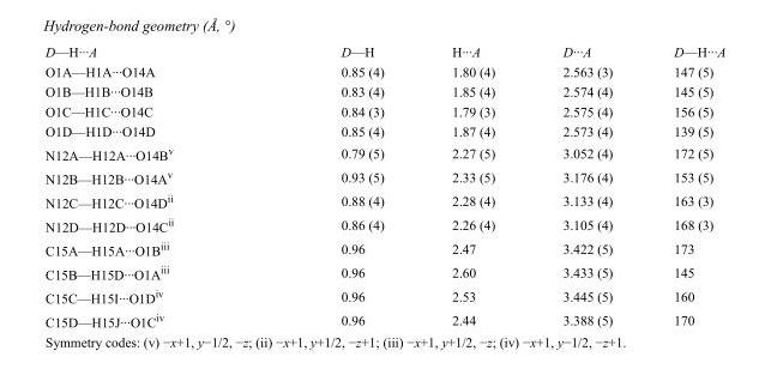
<table><tbody><tr><td>D—H···A</td><td>D—H</td><td>H···A</td><td>D···A</td><td>D—H···A</td></tr><tr><td>O1A—H1A···O14A</td><td>0.85 (4)</td><td>1.80 (4)</td><td>2.563 (3)</td><td>147 (5)</td></tr><tr><td>O1B—H1B···O14B</td><td>0.83 (4)</td><td>1.85 (4)</td><td>2.574 (4)</td><td>145 (5)</td></tr><tr><td>O1C—H1C···O14C</td><td>0.84 (3)</td><td>1.79 (3)</td><td>2.575 (4)</td><td>156 (5)</td></tr><tr><td>O1D—H1D···O14D</td><td>0.85 (4)</td><td>1.87 (4)</td><td>2.573 (4)</td><td>139 (5)</td></tr><tr><td>N12A—H12A···O14B<sup>v</sup></td><td>0.79 (5)</td><td>2.27 (5)</td><td>3.052 (4)</td><td>172 (5)</td></tr><tr><td>N12B—H12B···O14A<sup>v</sup></td><td>0.93 (5)</td><td>2.33 (5)</td><td>3.176 (4)</td><td>153 (5)</td></tr><tr><td>N12C—H12C···O14D<sup>ii</sup></td><td>0.88 (4)</td><td>2.28 (4)</td><td>3.133 (4)</td><td>163 (3)</td></tr><tr><td>N12D—H12D···O14C<sup>ii</sup></td><td>0.86 (4)</td><td>2.26 (4)</td><td>3.105 (4)</td><td>168 (3)</td></tr><tr><td>C15A—H15A···O1B<sup>iii</sup></td><td>0.96</td><td>2.47</td><td>3.422 (5)</td><td>173</td></tr><tr><td>C15B—H15D···O1A<sup>iii</sup></td><td>0.96</td><td>2.60</td><td>3.433 (5)</td><td>145</td></tr><tr><td>C15C—H15I···O1D<sup>iv</sup></td><td>0.96</td><td>2.53</td><td>3.445 (5)</td><td>160</td></tr><tr><td>C15D—H15J···O1C<sup>iv</sup></td><td>0.96</td><td>2.44</td><td>3.388 (5)</td><td>170</td></tr></tbody></table>